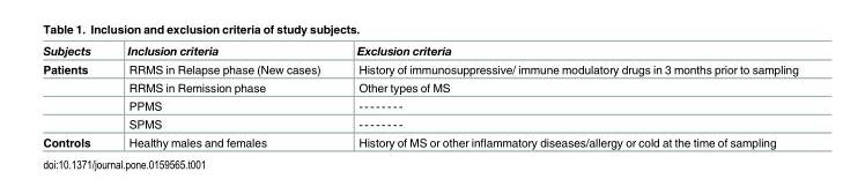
<table><thead><tr><td>Subjects</td><td>Inclusion criteria</td><td>Exclusion criteria</td></tr></thead><tbody><tr><td rowspan="4">Patients</td><td>RRMS in Relapse phase (New cases)</td><td>History of immunosuppressive/ immune modulatory drugs in 3 months prior to sampling</td></tr><tr><td>RRMS in Remission phase</td><td>Other types of MS</td></tr><tr><td>PPMS</td><td>- - - - - - - -</td></tr><tr><td>SPMS</td><td>- - - - - - - -</td></tr><tr><td>Controls</td><td>Healthy males and females</td><td>History of MS or other inflammatory diseases/allergy or cold at the time of sampling</td></tr></tbody></table>